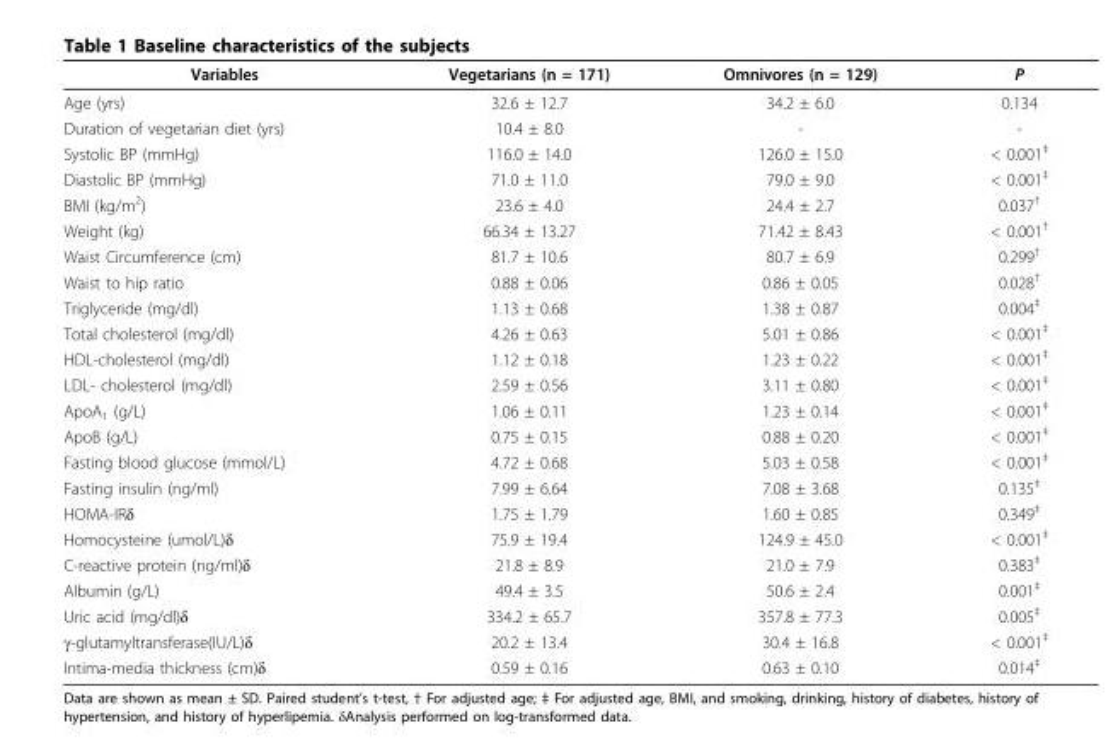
<table><thead><tr><td>Variables</td><td>Vegetarians (n = 171)</td><td>Omnivores (n = 129)</td><td>P</td></tr></thead><tbody><tr><td>Age (yrs)</td><td>32.6 ± 12.7</td><td>34.2 ± 6.0</td><td>0.134</td></tr><tr><td>Duration of vegetarian diet (yrs)</td><td>10.4 ± 8.0</td><td>-</td><td>-</td></tr><tr><td>Systolic BP (mmHg)</td><td>116.0 ± 14.0</td><td>126.0 ± 15.0</td><td>&lt; 0.001<sup>‡</sup></td></tr><tr><td>Diastolic BP (mmHg)</td><td>71.0 ± 11.0</td><td>79.0 ± 9.0</td><td>&lt; 0.001<sup>‡</sup></td></tr><tr><td>BMI (kg/m<sup>2</sup>)</td><td>23.6 ± 4.0</td><td>24.4 ± 2.7</td><td>0.037<sup>†</sup></td></tr><tr><td>Weight (kg)</td><td>66.34 ± 13.27</td><td>71.42 ± 8.43</td><td>&lt; 0.001<sup>†</sup></td></tr><tr><td>Waist Circumference (cm)</td><td>81.7 ± 10.6</td><td>80.7 ± 6.9</td><td>0.299<sup>†</sup></td></tr><tr><td>Waist to hip ratio</td><td>0.88 ± 0.06</td><td>0.86 ± 0.05</td><td>0.028<sup>†</sup></td></tr><tr><td>Triglyceride (mg/dl)</td><td>1.13 ± 0.68</td><td>1.38 ± 0.87</td><td>0.004<sup>‡</sup></td></tr><tr><td>Total cholesterol (mg/dl)</td><td>4.26 ± 0.63</td><td>5.01 ± 0.86</td><td>&lt; 0.001<sup>‡</sup></td></tr><tr><td>HDL-cholesterol (mg/dl)</td><td>1.12 ± 0.18</td><td>1.23 ± 0.22</td><td>&lt; 0.001<sup>‡</sup></td></tr><tr><td>LDL- cholesterol (mg/dl)</td><td>2.59 ± 0.56</td><td>3.11 ± 0.80</td><td>&lt; 0.001<sup>‡</sup></td></tr><tr><td>ApoA<sub>1</sub> (g/L)</td><td>1.06 ± 0.11</td><td>1.23 ± 0.14</td><td>&lt; 0.001<sup>‡</sup></td></tr><tr><td>ApoB (g/L)</td><td>0.75 ± 0.15</td><td>0.88 ± 0.20</td><td>&lt; 0.001<sup>‡</sup></td></tr><tr><td>Fasting blood glucose (mmol/L)</td><td>4.72 ± 0.68</td><td>5.03 ± 0.58</td><td>&lt; 0.001<sup>‡</sup></td></tr><tr><td>Fasting insulin (ng/ml)</td><td>7.99 ± 6.64</td><td>7.08 ± 3.68</td><td>0.135<sup>‡</sup></td></tr><tr><td>HOMA-IRδ</td><td>1.75 ± 1.79</td><td>1.60 ± 0.85</td><td>0.349<sup>‡</sup></td></tr><tr><td>Homocysteine (umol/L)δ</td><td>75.9 ± 19.4</td><td>124.9 ± 45.0</td><td>&lt; 0.001<sup>‡</sup></td></tr><tr><td>C-reactive protein (ng/ml)δ</td><td>21.8 ± 8.9</td><td>21.0 ± 7.9</td><td>0.383<sup>‡</sup></td></tr><tr><td>Albumin (g/L)</td><td>49.4 ± 3.5</td><td>50.6 ± 2.4</td><td>0.001<sup>‡</sup></td></tr><tr><td>Uric acid (mg/dl)δ</td><td>334.2 ± 65.7</td><td>357.8 ± 77.3</td><td>0.005<sup>‡</sup></td></tr><tr><td>γ-glutamyltransferase(IU/L)δ</td><td>20.2 ± 13.4</td><td>30.4 ± 16.8</td><td>&lt; 0.001<sup>‡</sup></td></tr><tr><td>Intima-media thickness (cm)δ</td><td>0.59 ± 0.16</td><td>0.63 ± 0.10</td><td>0.014<sup>‡</sup></td></tr></tbody></table>